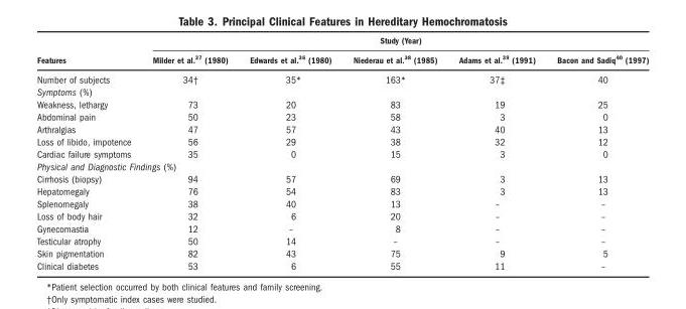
<table><thead><tr><td rowspan="2">Features</td><td colspan="5">Study (Year)</td></tr><tr><td>Milder et al.<sup>37</sup> (1980)</td><td>Edwards et al.<sup>36</sup> (1980)</td><td>Niederau et al.<sup>38</sup> (1985)</td><td>Adams et al.<sup>39</sup> (1991)</td><td>Bacon and Sadiq<sup>40</sup> (1997)</td></tr></thead><tbody><tr><td>Number of subjects</td><td>34†</td><td>35*</td><td>163*</td><td>37‡</td><td>40</td></tr><tr><td colspan="6">Symptoms (%)</td></tr><tr><td>Weakness, lethargy</td><td>73</td><td>20</td><td>83</td><td>19</td><td>25</td></tr><tr><td>Abdominal pain</td><td>50</td><td>23</td><td>58</td><td>3</td><td>0</td></tr><tr><td>Arthralgias</td><td>47</td><td>57</td><td>43</td><td>40</td><td>13</td></tr><tr><td>Loss of libido, impotence</td><td>56</td><td>29</td><td>38</td><td>32</td><td>12</td></tr><tr><td>Cardiac failure symptoms</td><td>35</td><td>0</td><td>15</td><td>3</td><td>0</td></tr><tr><td colspan="6">Physical and Diagnostic Findings (%)</td></tr><tr><td>Cirrhosis (biopsy)</td><td>94</td><td>57</td><td>69</td><td>3</td><td>13</td></tr><tr><td>Hepatomegaly</td><td>76</td><td>54</td><td>83</td><td>3</td><td>13</td></tr><tr><td>Splenomegaly</td><td>38</td><td>40</td><td>13</td><td>–</td><td>–</td></tr><tr><td>Loss of body hair</td><td>32</td><td>6</td><td>20</td><td>–</td><td>–</td></tr><tr><td>Gynecomastia</td><td>12</td><td>–</td><td>8</td><td>–</td><td>–</td></tr><tr><td>Testicular atrophy</td><td>50</td><td>14</td><td>–</td><td>–</td><td>–</td></tr><tr><td>Skin pigmentation</td><td>82</td><td>43</td><td>75</td><td>9</td><td>5</td></tr><tr><td>Clinical diabetes</td><td>53</td><td>6</td><td>55</td><td>11</td><td>–</td></tr></tbody></table>